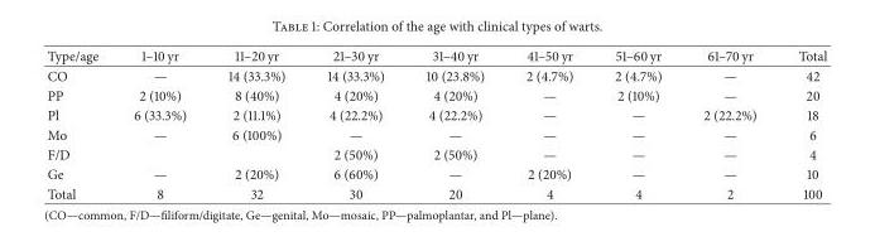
<table><thead><tr><td>Type/age</td><td>1–10 yr</td><td>11–20 yr</td><td>21–30 yr</td><td>31–40 yr</td><td>41–50 yr</td><td>51–60 yr</td><td>61–70 yr</td><td>Total</td></tr></thead><tbody><tr><td>CO</td><td>—</td><td>14 (33.3%)</td><td>14 (33.3%)</td><td>10 (23.8%)</td><td>2 (4.7%)</td><td>2 (4.7%)</td><td>—</td><td>42</td></tr><tr><td>PP</td><td>2 (10%)</td><td>8 (40%)</td><td>4 (20%)</td><td>4 (20%)</td><td>—</td><td>2 (10%)</td><td>—</td><td>20</td></tr><tr><td>Pl</td><td>6 (33.3%)</td><td>2 (11.1%)</td><td>4 (22.2%)</td><td>4 (22.2%)</td><td>—</td><td>—</td><td>2 (22.2%)</td><td>18</td></tr><tr><td>Mo</td><td>—</td><td>6 (100%)</td><td>—</td><td>—</td><td>—</td><td>—</td><td>—</td><td>6</td></tr><tr><td>F/D</td><td></td><td></td><td>2 (50%)</td><td>2 (50%)</td><td>—</td><td>—</td><td>—</td><td>4</td></tr><tr><td>Ge</td><td>—</td><td>2 (20%)</td><td>6 (60%)</td><td>—</td><td>2 (20%)</td><td>—</td><td>—</td><td>10</td></tr><tr><td>Total</td><td>8</td><td>32</td><td>30</td><td>20</td><td>4</td><td>4</td><td>2</td><td>100</td></tr></tbody></table>